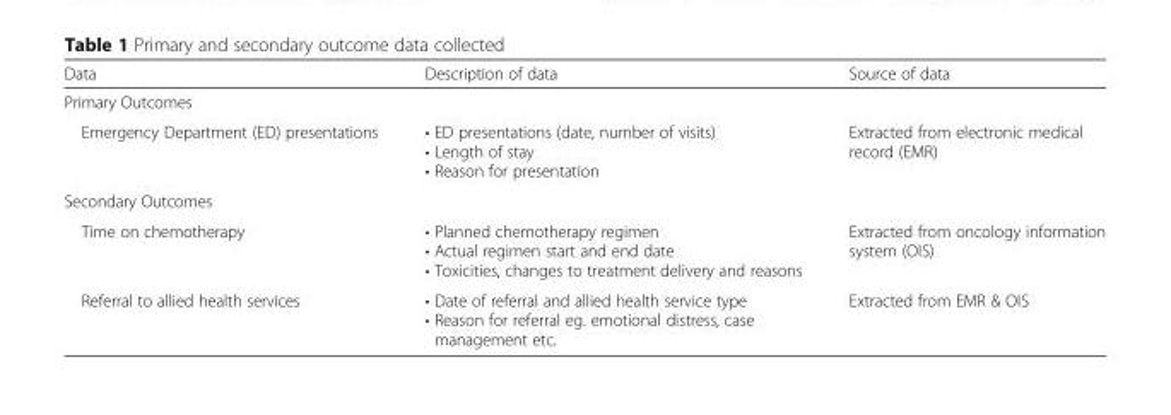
<table><thead><tr><td>Data</td><td>Description of data</td><td>Source of data</td></tr></thead><tbody><tr><td colspan="3">Primary Outcomes</td></tr><tr><td>Emergency Department (ED) presentations</td><td>• ED presentations (date, number of visits) • Length of stay • Reason for presentation</td><td>Extracted from electronic medical record (EMR)</td></tr><tr><td colspan="3">Secondary Outcomes</td></tr><tr><td>Time on chemotherapy</td><td>• Planned chemotherapy regimen • Actual regimen start and end date • Toxicities, changes to treatment delivery and reasons</td><td>Extracted from oncology information system (OIS)</td></tr><tr><td>Referral to allied health services</td><td>• Date of referral and allied health service type • Reason for referral eg. emotional distress, case management etc.</td><td>Extracted from EMR &amp; OIS</td></tr></tbody></table>